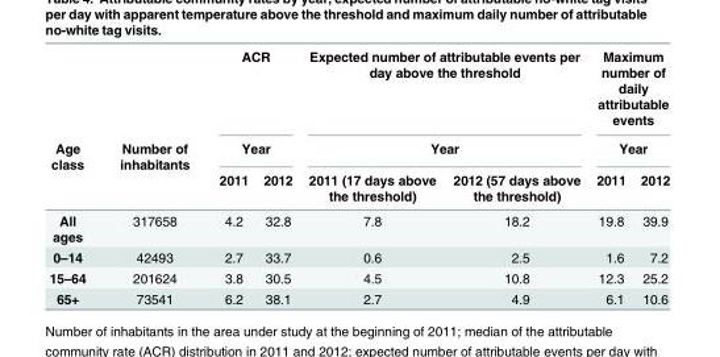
<table><thead><tr><td rowspan="3">Age class</td><td rowspan="3">Number of inhabitants</td><td rowspan="2" colspan="2">ACR Year</td><td rowspan="2" colspan="2">Expected number of attributable events per day above the threshold Year</td><td rowspan="2" colspan="2">Maximum number of daily attributable events Year</td></tr><tr></tr><tr><td>2011</td><td>2012</td><td>2011 (17 days above the threshold)</td><td>2012 (57 days above the threshold)</td><td>2011</td><td>2012</td></tr></thead><tbody><tr><td>All ages</td><td>317658</td><td>4.2</td><td>32.8</td><td>7.8</td><td>18.2</td><td>19.8</td><td>39.9</td></tr><tr><td>0–14</td><td>42493</td><td>2.7</td><td>33.7</td><td>0.6</td><td>2.5</td><td>1.6</td><td>7.2</td></tr><tr><td>15–64</td><td>201624</td><td>3.8</td><td>30.5</td><td>4.5</td><td>10.8</td><td>12.3</td><td>25.2</td></tr><tr><td>65+</td><td>73541</td><td>6.2</td><td>38.1</td><td>2.7</td><td>4.9</td><td>6.1</td><td>10.6</td></tr></tbody></table>